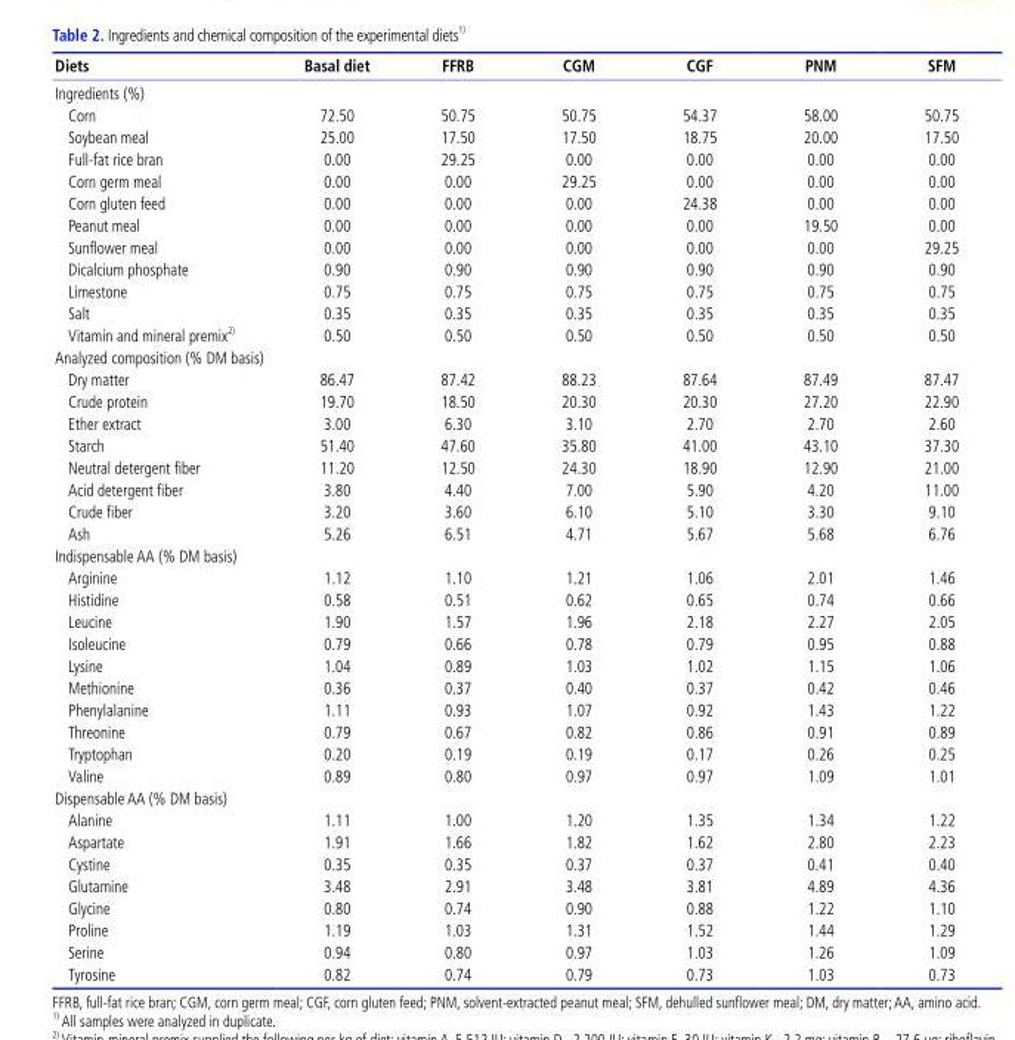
<table><thead><tr><td>Diets</td><td>Basal diet</td><td>FFRB</td><td>CGM</td><td>CGF</td><td>PNM</td><td>SFM</td></tr></thead><tbody><tr><td colspan="7">Ingredients (%)</td></tr><tr><td>Corn</td><td>72.50</td><td>50.75</td><td>50.75</td><td>54.37</td><td>58.00</td><td>50.75</td></tr><tr><td>Soybean meal</td><td>25.00</td><td>17.50</td><td>17.50</td><td>18.75</td><td>20.00</td><td>17.50</td></tr><tr><td>Full-fat rice bran</td><td>0.00</td><td>29.25</td><td>0.00</td><td>0.00</td><td>0.00</td><td>0.00</td></tr><tr><td>Corn germ meal</td><td>0.00</td><td>0.00</td><td>29.25</td><td>0.00</td><td>0.00</td><td>0.00</td></tr><tr><td>Corn gluten feed</td><td>0.00</td><td>0.00</td><td>0.00</td><td>24.38</td><td>0.00</td><td>0.00</td></tr><tr><td>Peanut meal</td><td>0.00</td><td>0.00</td><td>0.00</td><td>0.00</td><td>19.50</td><td>0.00</td></tr><tr><td>Sunflower meal</td><td>0.00</td><td>0.00</td><td>0.00</td><td>0.00</td><td>0.00</td><td>29.25</td></tr><tr><td>Dicalcium phosphate</td><td>0.90</td><td>0.90</td><td>0.90</td><td>0.90</td><td>0.90</td><td>0.90</td></tr><tr><td>Limestone</td><td>0.75</td><td>0.75</td><td>0.75</td><td>0.75</td><td>0.75</td><td>0.75</td></tr><tr><td>Salt</td><td>0.35</td><td>0.35</td><td>0.35</td><td>0.35</td><td>0.35</td><td>0.35</td></tr><tr><td>Vitamin and mineral premix 2)</td><td>0.50</td><td>0.50</td><td>0.50</td><td>0.50</td><td>0.50</td><td>0.50</td></tr><tr><td colspan="7">Analyzed composition (% DM basis)</td></tr><tr><td>Dry matter</td><td>86.47</td><td>87.42</td><td>88.23</td><td>87.64</td><td>87.49</td><td>87.47</td></tr><tr><td>Crude protein</td><td>19.70</td><td>18.50</td><td>20.30</td><td>20.30</td><td>27.20</td><td>22.90</td></tr><tr><td>Ether extract</td><td>3.00</td><td>6.30</td><td>3.10</td><td>2.70</td><td>2.70</td><td>2.60</td></tr><tr><td>Starch</td><td>51.40</td><td>47.60</td><td>35.80</td><td>41.00</td><td>43.10</td><td>37.30</td></tr><tr><td>Neutral detergent fiber</td><td>11.20</td><td>12.50</td><td>24.30</td><td>18.90</td><td>12.90</td><td>21.00</td></tr><tr><td>Acid detergent fiber</td><td>3.80</td><td>4.40</td><td>7.00</td><td>5.90</td><td>4.20</td><td>11.00</td></tr><tr><td>Crude fiber</td><td>3.20</td><td>3.60</td><td>6.10</td><td>5.10</td><td>3.30</td><td>9.10</td></tr><tr><td>Ash</td><td>5.26</td><td>6.51</td><td>4.71</td><td>5.67</td><td>5.68</td><td>6.76</td></tr><tr><td colspan="7">Indispensable AA (% DM basis)</td></tr><tr><td>Arginine</td><td>1.12</td><td>1.10</td><td>1.21</td><td>1.06</td><td>2.01</td><td>1.46</td></tr><tr><td>Histidine</td><td>0.58</td><td>0.51</td><td>0.62</td><td>0.65</td><td>0.74</td><td>0.66</td></tr><tr><td>Leucine</td><td>1.90</td><td>1.57</td><td>1.96</td><td>2.18</td><td>2.27</td><td>2.05</td></tr><tr><td>Isoleucine</td><td>0.79</td><td>0.66</td><td>0.78</td><td>0.79</td><td>0.95</td><td>0.88</td></tr><tr><td>Lysine</td><td>1.04</td><td>0.89</td><td>1.03</td><td>1.02</td><td>1.15</td><td>1.06</td></tr><tr><td>Methionine</td><td>0.36</td><td>0.37</td><td>0.40</td><td>0.37</td><td>0.42</td><td>0.46</td></tr><tr><td>Phenylalanine</td><td>1.11</td><td>0.93</td><td>1.07</td><td>0.92</td><td>1.43</td><td>1.22</td></tr><tr><td>Threonine</td><td>0.79</td><td>0.67</td><td>0.82</td><td>0.86</td><td>0.91</td><td>0.89</td></tr><tr><td>Tryptophan</td><td>0.20</td><td>0.19</td><td>0.19</td><td>0.17</td><td>0.26</td><td>0.25</td></tr><tr><td>Valine</td><td>0.89</td><td>0.80</td><td>0.97</td><td>0.97</td><td>1.09</td><td>1.01</td></tr><tr><td colspan="7">Dispensable AA (% DM basis)</td></tr><tr><td>Alanine</td><td>1.11</td><td>1.00</td><td>1.20</td><td>1.35</td><td>1.34</td><td>1.22</td></tr><tr><td>Aspartate</td><td>1.91</td><td>1.66</td><td>1.82</td><td>1.62</td><td>2.80</td><td>2.23</td></tr><tr><td>Cystine</td><td>0.35</td><td>0.35</td><td>0.37</td><td>0.37</td><td>0.41</td><td>0.40</td></tr><tr><td>Glutamine</td><td>3.48</td><td>2.91</td><td>3.48</td><td>3.81</td><td>4.89</td><td>4.36</td></tr><tr><td>Glycine</td><td>0.80</td><td>0.74</td><td>0.90</td><td>0.88</td><td>1.22</td><td>1.10</td></tr><tr><td>Proline</td><td>1.19</td><td>1.03</td><td>1.31</td><td>1.52</td><td>1.44</td><td>1.29</td></tr><tr><td>Serine</td><td>0.94</td><td>0.80</td><td>0.97</td><td>1.03</td><td>1.26</td><td>1.09</td></tr><tr><td>Tyrosine</td><td>0.82</td><td>0.74</td><td>0.79</td><td>0.73</td><td>1.03</td><td>0.73</td></tr></tbody></table>